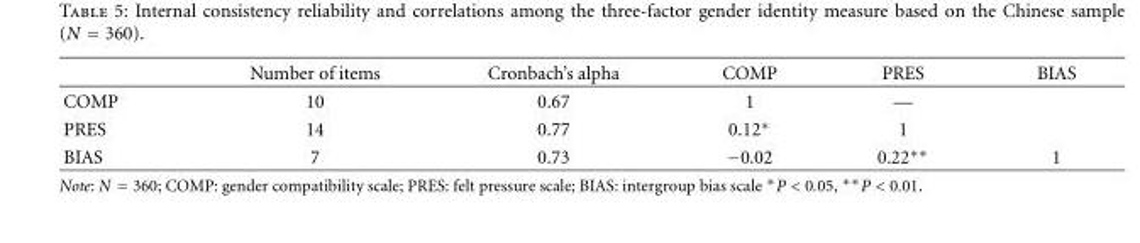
<table><thead><tr><td></td><td>Number of items</td><td>Cronbach’s alpha</td><td>COMP</td><td>PRES</td><td>BIAS</td></tr></thead><tbody><tr><td>COMP</td><td>10</td><td>0.67</td><td>1</td><td>—</td><td></td></tr><tr><td>PRES</td><td>14</td><td>0.77</td><td>0.12∗</td><td>1</td><td></td></tr><tr><td>BIAS</td><td>7</td><td>0.73</td><td>−0.02</td><td>0.22∗∗</td><td>1</td></tr></tbody></table>